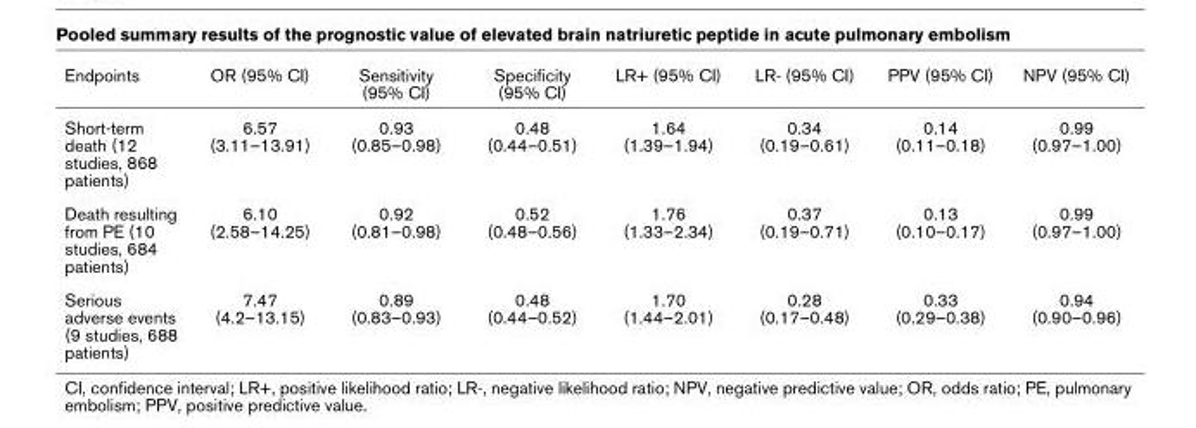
<table><thead><tr><td>Endpoints</td><td>OR (95% CI)</td><td>Sensitivity (95% CI)</td><td>Specificity (95% CI)</td><td>LR+ (95% CI)</td><td>LR- (95% CI)</td><td>PPV (95% CI)</td><td>NPV (95% CI)</td></tr></thead><tbody><tr><td>Short-term death (12 studies, 868 patients)</td><td>6.57 (3.11–13.91)</td><td>0.93 (0.85–0.98)</td><td>0.48 (0.44–0.51)</td><td>1.64 (1.39–1.94)</td><td>0.34 (0.19–0.61)</td><td>0.14 (0.11–0.18)</td><td>0.99 (0.97–1.00)</td></tr><tr><td>Death resulting from PE (10 studies, 684 patients)</td><td>6.10 (2.58–14.25)</td><td>0.92 (0.81–0.98)</td><td>0.52 (0.48–0.56)</td><td>1.76 (1.33–2.34)</td><td>0.37 (0.19–0.71)</td><td>0.13 (0.10–0.17)</td><td>0.99 (0.97–1.00)</td></tr><tr><td>Serious adverse events (9 studies, 688 patients)</td><td>7.47 (4.2–13.15)</td><td>0.89 (0.83–0.93)</td><td>0.48 (0.44–0.52)</td><td>1.70 (1.44–2.01)</td><td>0.28 (0.17–0.48)</td><td>0.33 (0.29–0.38)</td><td>0.94 (0.90–0.96)</td></tr></tbody></table>